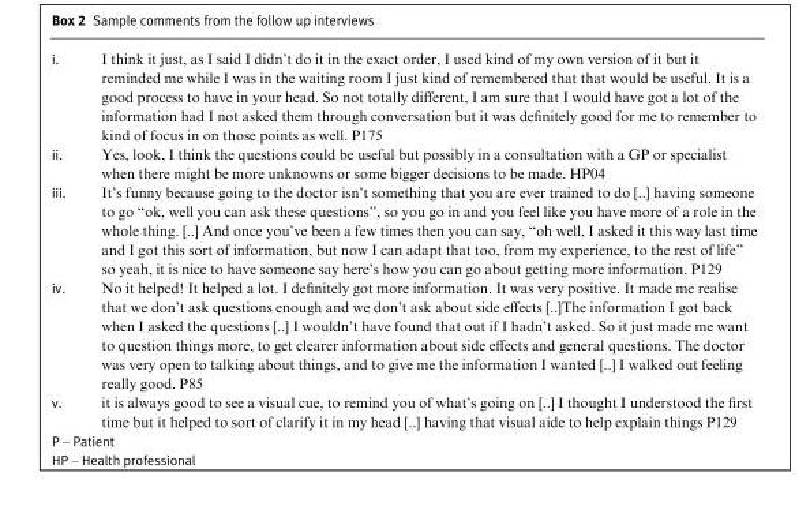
<table><tbody><tr><td>i.</td><td>I think it just, as I said I didn’t do it in the exact order, I used kind of my own version of it but it reminded me while I was in the waiting room I just kind of remembered that that would be useful. It is a good process to have in your head. So not totally different, I am sure that I would have got a lot of the information had I not asked them through conversation but it was definitely good for me to remember to kind of focus in on those points as well. P175</td></tr><tr><td>ii.</td><td>Yes, look, I think the questions could be useful but possibly in a consultation with a GP or specialist when there might be more unknowns or some bigger decisions to be made. HP04</td></tr><tr><td>iii.</td><td>It’s funny because going to the doctor isn’t something that you are ever trained to do [..] having someone to go “ok, well you can ask these questions”, so you go in and you feel like you have more of a role in the whole thing. [..] And once you’ve been a few times then you can say, “oh well, I asked it this way last time and I got this sort of information, but now I can adapt that too, from my experience, to the rest of life” so yeah, it is nice to have someone say here’s how you can go about getting more information. P129</td></tr><tr><td>iv.</td><td>No it helped! It helped a lot. I definitely got more information. It was very positive. It made me realise that we don’t ask questions enough and we don’t ask about side effects [..]The information I got back when I asked the questions [..] I wouldn’t have found that out if I hadn’t asked. So it just made me want to question things more, to get clearer information about side effects and general questions. The doctor was very open to talking about things, and to give me the information I wanted [..] I walked out feeling really good. P85</td></tr><tr><td>v.</td><td>it is always good to see a visual cue, to remind you of what’s going on [..] I thought I understood the first time but it helped to sort of clarify it in my head [..] having that visual aide to help explain things P129</td></tr><tr><td colspan="2">P – Patient</td></tr><tr><td colspan="2">HP – Health professional</td></tr></tbody></table>